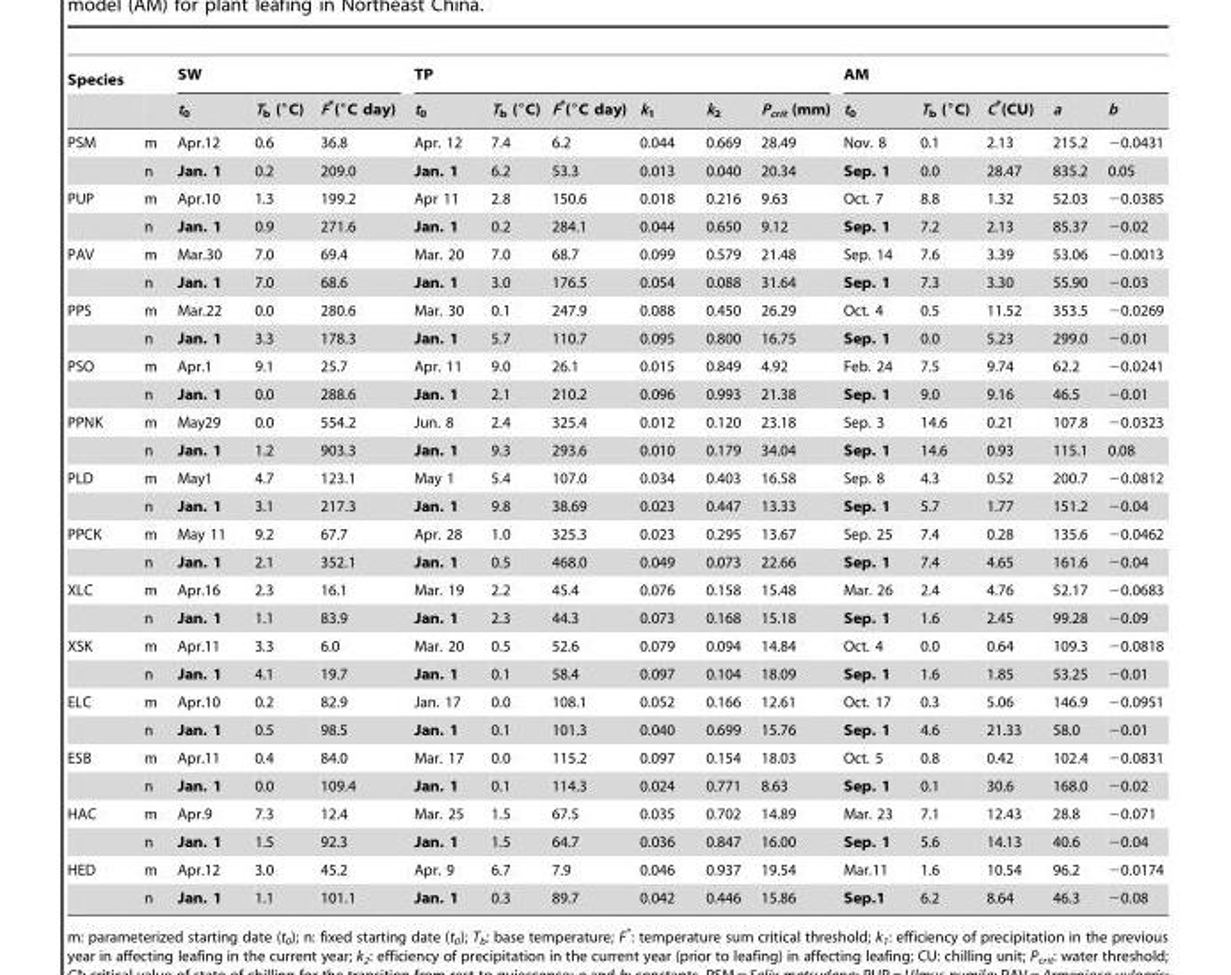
<table><thead><tr><td rowspan="2">Species</td><td rowspan="2"></td><td colspan="3">SW</td><td colspan="6">TP</td><td colspan="5">AM</td></tr><tr><td>t<sub>0</sub></td><td>T<sub>b</sub> (°C)</td><td>F*(°C day)</td><td>t<sub>0</sub></td><td>T<sub>b</sub> (°C)</td><td>F*(°C day)</td><td>k<sub>1</sub></td><td>k<sub>2</sub></td><td>P<sub>crit</sub> (mm)</td><td>t<sub>0</sub></td><td>T<sub>b</sub> (°C)</td><td>C*(CU)</td><td>a</td><td>b</td></tr></thead><tbody><tr><td rowspan="2">PSM</td><td>m</td><td>Apr.12</td><td>0.6</td><td>36.8</td><td>Apr. 12</td><td>7.4</td><td>6.2</td><td>0.044</td><td>0.669</td><td>28.49</td><td>Nov. 8</td><td>0.1</td><td>2.13</td><td>215.2</td><td>−0.0431</td></tr><tr><td>n</td><td>Jan. 1</td><td>0.2</td><td>209.0</td><td>Jan. 1</td><td>6.2</td><td>53.3</td><td>0.013</td><td>0.040</td><td>20.34</td><td>Sep. 1</td><td>0.0</td><td>28.47</td><td>835.2</td><td>0.05</td></tr><tr><td rowspan="2">PUP</td><td>m</td><td>Apr.10</td><td>1.3</td><td>199.2</td><td>Apr 11</td><td>2.8</td><td>150.6</td><td>0.018</td><td>0.216</td><td>9.63</td><td>Oct. 7</td><td>8.8</td><td>1.32</td><td>52.03</td><td>−0.0385</td></tr><tr><td>n</td><td>Jan. 1</td><td>0.9</td><td>271.6</td><td>Jan. 1</td><td>0.2</td><td>284.1</td><td>0.044</td><td>0.650</td><td>9.12</td><td>Sep. 1</td><td>7.2</td><td>2.13</td><td>85.37</td><td>−0.02</td></tr><tr><td rowspan="2">PAV</td><td>m</td><td>Mar.30</td><td>7.0</td><td>69.4</td><td>Mar. 20</td><td>7.0</td><td>68.7</td><td>0.099</td><td>0.579</td><td>21.48</td><td>Sep. 14</td><td>7.6</td><td>3.39</td><td>53.06</td><td>−0.0013</td></tr><tr><td>n</td><td>Jan. 1</td><td>7.0</td><td>68.6</td><td>Jan. 1</td><td>3.0</td><td>176.5</td><td>0.054</td><td>0.088</td><td>31.64</td><td>Sep. 1</td><td>7.3</td><td>3.30</td><td>55.90</td><td>−0.03</td></tr><tr><td rowspan="2">PPS</td><td>m</td><td>Mar.22</td><td>0.0</td><td>280.6</td><td>Mar. 30</td><td>0.1</td><td>247.9</td><td>0.088</td><td>0.450</td><td>26.29</td><td>Oct. 4</td><td>0.5</td><td>11.52</td><td>353.5</td><td>−0.0269</td></tr><tr><td>n</td><td>Jan. 1</td><td>3.3</td><td>178.3</td><td>Jan. 1</td><td>5.7</td><td>110.7</td><td>0.095</td><td>0.800</td><td>16.75</td><td>Sep. 1</td><td>0.0</td><td>5.23</td><td>299.0</td><td>−0.01</td></tr><tr><td rowspan="2">PSO</td><td>m</td><td>Apr.1</td><td>9.1</td><td>25.7</td><td>Apr. 11</td><td>9.0</td><td>26.1</td><td>0.015</td><td>0.849</td><td>4.92</td><td>Feb. 24</td><td>7.5</td><td>9.74</td><td>62.2</td><td>−0.0241</td></tr><tr><td>n</td><td>Jan. 1</td><td>0.0</td><td>288.6</td><td>Jan. 1</td><td>2.1</td><td>210.2</td><td>0.096</td><td>0.993</td><td>21.38</td><td>Sep. 1</td><td>9.0</td><td>9.16</td><td>46.5</td><td>−0.01</td></tr><tr><td rowspan="2">PPNK</td><td>m</td><td>May29</td><td>0.0</td><td>554.2</td><td>Jun. 8</td><td>2.4</td><td>325.4</td><td>0.012</td><td>0.120</td><td>23.18</td><td>Sep. 3</td><td>14.6</td><td>0.21</td><td>107.8</td><td>−0.0323</td></tr><tr><td>n</td><td>Jan. 1</td><td>1.2</td><td>903.3</td><td>Jan. 1</td><td>9.3</td><td>293.6</td><td>0.010</td><td>0.179</td><td>34.04</td><td>Sep. 1</td><td>14.6</td><td>0.93</td><td>115.1</td><td>0.08</td></tr><tr><td rowspan="2">PLD</td><td>m</td><td>May1</td><td>4.7</td><td>123.1</td><td>May 1</td><td>5.4</td><td>107.0</td><td>0.034</td><td>0.403</td><td>16.58</td><td>Sep. 8</td><td>4.3</td><td>0.52</td><td>200.7</td><td>−0.0812</td></tr><tr><td>n</td><td>Jan. 1</td><td>3.1</td><td>217.3</td><td>Jan. 1</td><td>9.8</td><td>38.69</td><td>0.023</td><td>0.447</td><td>13.33</td><td>Sep. 1</td><td>5.7</td><td>1.77</td><td>151.2</td><td>−0.04</td></tr><tr><td rowspan="2">PPCK</td><td>m</td><td>May 11</td><td>9.2</td><td>67.7</td><td>Apr. 28</td><td>1.0</td><td>325.3</td><td>0.023</td><td>0.295</td><td>13.67</td><td>Sep. 25</td><td>7.4</td><td>0.28</td><td>135.6</td><td>−0.0462</td></tr><tr><td>n</td><td>Jan. 1</td><td>2.1</td><td>352.1</td><td>Jan. 1</td><td>0.5</td><td>468.0</td><td>0.049</td><td>0.073</td><td>22.66</td><td>Sep. 1</td><td>7.4</td><td>4.65</td><td>161.6</td><td>−0.04</td></tr><tr><td rowspan="2">XLC</td><td>m</td><td>Apr.16</td><td>2.3</td><td>16.1</td><td>Mar. 19</td><td>2.2</td><td>45.4</td><td>0.076</td><td>0.158</td><td>15.48</td><td>Mar. 26</td><td>2.4</td><td>4.76</td><td>52.17</td><td>−0.0683</td></tr><tr><td>n</td><td>Jan. 1</td><td>1.1</td><td>83.9</td><td>Jan. 1</td><td>2.3</td><td>44.3</td><td>0.073</td><td>0.168</td><td>15.18</td><td>Sep. 1</td><td>1.6</td><td>2.45</td><td>99.28</td><td>−0.09</td></tr><tr><td rowspan="2">XSK</td><td>m</td><td>Apr.11</td><td>3.3</td><td>6.0</td><td>Mar. 20</td><td>0.5</td><td>52.6</td><td>0.079</td><td>0.094</td><td>14.84</td><td>Oct. 4</td><td>0.0</td><td>0.64</td><td>109.3</td><td>−0.0818</td></tr><tr><td>n</td><td>Jan. 1</td><td>4.1</td><td>19.7</td><td>Jan. 1</td><td>0.1</td><td>58.4</td><td>0.097</td><td>0.104</td><td>18.09</td><td>Sep. 1</td><td>1.6</td><td>1.85</td><td>53.25</td><td>−0.01</td></tr><tr><td rowspan="2">ELC</td><td>m</td><td>Apr.10</td><td>0.2</td><td>82.9</td><td>Jan. 17</td><td>0.0</td><td>108.1</td><td>0.052</td><td>0.166</td><td>12.61</td><td>Oct. 17</td><td>0.3</td><td>5.06</td><td>146.9</td><td>−0.0951</td></tr><tr><td>n</td><td>Jan. 1</td><td>0.5</td><td>98.5</td><td>Jan. 1</td><td>0.1</td><td>101.3</td><td>0.040</td><td>0.699</td><td>15.76</td><td>Sep. 1</td><td>4.6</td><td>21.33</td><td>58.0</td><td>−0.01</td></tr><tr><td rowspan="2">ESB</td><td>m</td><td>Apr.11</td><td>0.4</td><td>84.0</td><td>Mar. 17</td><td>0.0</td><td>115.2</td><td>0.097</td><td>0.154</td><td>18.03</td><td>Oct. 5</td><td>0.8</td><td>0.42</td><td>102.4</td><td>−0.0831</td></tr><tr><td>n</td><td>Jan. 1</td><td>0.0</td><td>109.4</td><td>Jan. 1</td><td>0.1</td><td>114.3</td><td>0.024</td><td>0.771</td><td>8.63</td><td>Sep. 1</td><td>0.1</td><td>30.6</td><td>168.0</td><td>−0.02</td></tr><tr><td rowspan="2">HAC</td><td>m</td><td>Apr.9</td><td>7.3</td><td>12.4</td><td>Mar. 25</td><td>1.5</td><td>67.5</td><td>0.035</td><td>0.702</td><td>14.89</td><td>Mar. 23</td><td>7.1</td><td>12.43</td><td>28.8</td><td>−0.071</td></tr><tr><td>n</td><td>Jan. 1</td><td>1.5</td><td>92.3</td><td>Jan. 1</td><td>1.5</td><td>64.7</td><td>0.036</td><td>0.847</td><td>16.00</td><td>Sep. 1</td><td>5.6</td><td>14.13</td><td>40.6</td><td>−0.04</td></tr><tr><td rowspan="2">HED</td><td>m</td><td>Apr.12</td><td>3.0</td><td>45.2</td><td>Apr. 9</td><td>6.7</td><td>7.9</td><td>0.046</td><td>0.937</td><td>19.54</td><td>Mar.11</td><td>1.6</td><td>10.54</td><td>96.2</td><td>−0.0174</td></tr><tr><td>n</td><td>Jan. 1</td><td>1.1</td><td>101.1</td><td>Jan. 1</td><td>0.3</td><td>89.7</td><td>0.042</td><td>0.446</td><td>15.86</td><td>Sep.1</td><td>6.2</td><td>8.64</td><td>46.3</td><td>−0.08</td></tr></tbody></table>